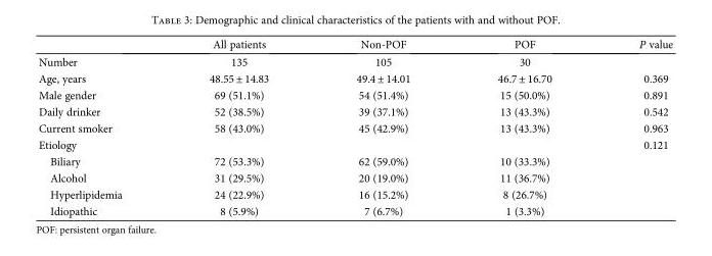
<table><thead><tr><td></td><td>All patients</td><td>Non-POF</td><td>POF</td><td>P value</td></tr></thead><tbody><tr><td>Number</td><td>135</td><td>105</td><td>30</td><td></td></tr><tr><td>Age, years</td><td>48.55 ± 14.83</td><td>49.4 ± 14.01</td><td>46.7 ± 16.70</td><td>0.369</td></tr><tr><td>Male gender</td><td>69 (51.1%)</td><td>54 (51.4%)</td><td>15 (50.0%)</td><td>0.891</td></tr><tr><td>Daily drinker</td><td>52 (38.5%)</td><td>39 (37.1%)</td><td>13 (43.3%)</td><td>0.542</td></tr><tr><td>Current smoker</td><td>58 (43.0%)</td><td>45 (42.9%)</td><td>13 (43.3%)</td><td>0.963</td></tr><tr><td>Etiology</td><td></td><td></td><td></td><td>0.121</td></tr><tr><td>Biliary</td><td>72 (53.3%)</td><td>62 (59.0%)</td><td>10 (33.3%)</td><td></td></tr><tr><td>Alcohol</td><td>31 (29.5%)</td><td>20 (19.0%)</td><td>11 (36.7%)</td><td></td></tr><tr><td>Hyperlipidemia</td><td>24 (22.9%)</td><td>16 (15.2%)</td><td>8 (26.7%)</td><td></td></tr><tr><td>Idiopathic</td><td>8 (5.9%)</td><td>7 (6.7%)</td><td>1 (3.3%)</td><td></td></tr></tbody></table>